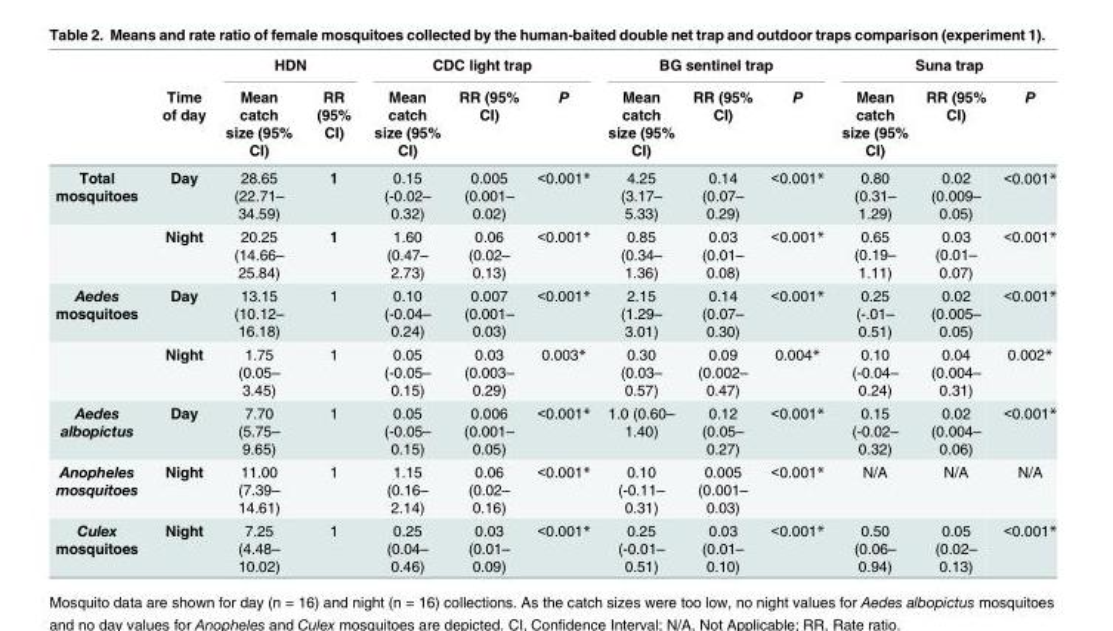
<table><thead><tr><td rowspan="2"></td><td rowspan="2">Time of day</td><td colspan="2">HDN</td><td colspan="3">CDC light trap</td><td colspan="3">BG sentinel trap</td><td colspan="3">Suna trap</td></tr><tr><td>Mean catch size (95% CI)</td><td>RR (95% CI)</td><td>Mean catch size (95% CI)</td><td>RR (95% CI)</td><td>P</td><td>Mean catch size (95% CI)</td><td>RR (95% CI)</td><td>P</td><td>Mean catch size (95% CI)</td><td>RR (95% CI)</td><td>P</td></tr></thead><tbody><tr><td rowspan="2">Total mosquitoes</td><td>Day</td><td>28.65 (22.71– 34.59)</td><td>1</td><td>0.15 (-0.02– 0.32)</td><td>0.005 (0.001– 0.02)</td><td>&lt;0.001*</td><td>4.25 (3.17– 5.33)</td><td>0.14 (0.07– 0.29)</td><td>&lt;0.001*</td><td>0.80 (0.31– 1.29)</td><td>0.02 (0.009– 0.05)</td><td>&lt;0.001*</td></tr><tr><td>Night</td><td>20.25 (14.66– 25.84)</td><td>1</td><td>1.60 (0.47– 2.73)</td><td>0.06 (0.02– 0.13)</td><td>&lt;0.001*</td><td>0.85 (0.34– 1.36)</td><td>0.03 (0.01– 0.08)</td><td>&lt;0.001*</td><td>0.65 (0.19– 1.11)</td><td>0.03 (0.01– 0.07)</td><td>&lt;0.001*</td></tr><tr><td rowspan="2">Aedes mosquitoes</td><td>Day</td><td>13.15 (10.12– 16.18)</td><td>1</td><td>0.10 (-0.04– 0.24)</td><td>0.007 (0.001– 0.03)</td><td>&lt;0.001*</td><td>2.15 (1.29– 3.01)</td><td>0.14 (0.07– 0.30)</td><td>&lt;0.001*</td><td>0.25 (-.01– 0.51)</td><td>0.02 (0.005– 0.05)</td><td>&lt;0.001*</td></tr><tr><td>Night</td><td>1.75 (0.05– 3.45)</td><td>1</td><td>0.05 (-0.05– 0.15)</td><td>0.03 (0.003– 0.29)</td><td>0.003*</td><td>0.30 (0.03– 0.57)</td><td>0.09 (0.002– 0.47)</td><td>0.004*</td><td>0.10 (-0.04– 0.24)</td><td>0.04 (0.004– 0.31)</td><td>0.002*</td></tr><tr><td>Aedes albopictus</td><td>Day</td><td>7.70 (5.75– 9.65)</td><td>1</td><td>0.05 (-0.05– 0.15)</td><td>0.006 (0.001– 0.05)</td><td>&lt;0.001*</td><td>1.0 (0.60– 1.40)</td><td>0.12 (0.05– 0.27)</td><td>&lt;0.001*</td><td>0.15 (-0.02– 0.32)</td><td>0.02 (0.004– 0.06)</td><td>&lt;0.001*</td></tr><tr><td>Anopheles mosquitoes</td><td>Night</td><td>11.00 (7.39– 14.61)</td><td>1</td><td>1.15 (0.16– 2.14)</td><td>0.06 (0.02– 0.16)</td><td>&lt;0.001*</td><td>0.10 (-0.11– 0.31)</td><td>0.005 (0.001– 0.03)</td><td>&lt;0.001*</td><td>N/A</td><td>N/A</td><td>N/A</td></tr><tr><td>Culex mosquitoes</td><td>Night</td><td>7.25 (4.48– 10.02)</td><td>1</td><td>0.25 (0.04– 0.46)</td><td>0.03 (0.01– 0.09)</td><td>&lt;0.001*</td><td>0.25 (-0.01– 0.51)</td><td>0.03 (0.01– 0.10)</td><td>&lt;0.001*</td><td>0.50 (0.06– 0.94)</td><td>0.05 (0.02– 0.13)</td><td>&lt;0.001*</td></tr></tbody></table>